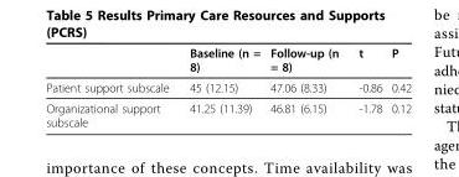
<table><thead><tr><td></td><td>Baseline (n = 8)</td><td>Follow-up (n = 8)</td><td>t</td><td>P</td></tr></thead><tbody><tr><td>Patient support subscale</td><td>45 (12.15)</td><td>47.06 (8.33)</td><td>-0.86</td><td>0.42</td></tr><tr><td>Organizational support subscale</td><td>41.25 (11.39)</td><td>46.81 (6.15)</td><td>-1.78</td><td>0.12</td></tr></tbody></table>